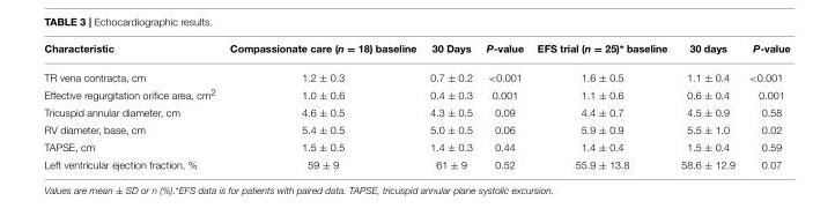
<table><thead><tr><td>Characteristic</td><td>Compassionate care (n = 18) baseline</td><td>30 Days</td><td>P-value</td><td>EFS trial (n = 25)* baseline</td><td>30 days</td><td>P-value</td></tr></thead><tbody><tr><td>TR vena contracta, cm</td><td>1.2 ± 0.3</td><td>0.7 ± 0.2</td><td>&lt;0.001</td><td>1.6 ± 0.5</td><td>1.1 ± 0.4</td><td>&lt;0.001</td></tr><tr><td>Effective regurgitation orifice area, cm<sup>2</sup></td><td>1.0 ± 0.6</td><td>0.4 ± 0.3</td><td>0.001</td><td>1.1 ± 0.6</td><td>0.6 ± 0.4</td><td>0.001</td></tr><tr><td>Tricuspid annular diameter, cm</td><td>4.6 ± 0.5</td><td>4.3 ± 0.5</td><td>0.09</td><td>4.4 ± 0.7</td><td>4.5 ± 0.9</td><td>0.58</td></tr><tr><td>RV diameter, base, cm</td><td>5.4 ± 0.5</td><td>5.0 ± 0.5</td><td>0.06</td><td>5.9 ± 0.9</td><td>5.5 ± 1.0</td><td>0.02</td></tr><tr><td>TAPSE, cm</td><td>1.5 ± 0.5</td><td>1.4 ± 0.3</td><td>0.44</td><td>1.4 ± 0.4</td><td>1.5 ± 0.4</td><td>0.59</td></tr><tr><td>Left ventricular ejection fraction, %</td><td>59 ± 9</td><td>61 ± 9</td><td>0.52</td><td>55.9 ± 13.8</td><td>58.6 ± 12.9</td><td>0.07</td></tr></tbody></table>